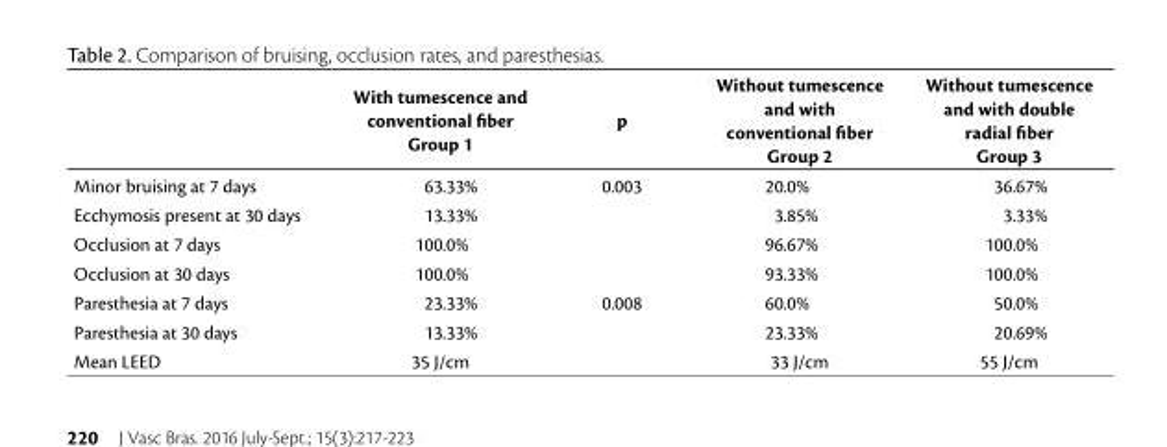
<table><thead><tr><td></td><td>With tumescence and conventional fiber Group 1</td><td>p</td><td>Without tumescence and with conventional fiber Group 2</td><td>Without tumescence and with double radial fiber Group 3</td></tr></thead><tbody><tr><td>Minor bruising at 7 days</td><td>63.33%</td><td>0.003</td><td>20.0%</td><td>36.67%</td></tr><tr><td>Ecchymosis present at 30 days</td><td>13.33%</td><td></td><td>3.85%</td><td>3.33%</td></tr><tr><td>Occlusion at 7 days</td><td>100.0%</td><td></td><td>96.67%</td><td>100.0%</td></tr><tr><td>Occlusion at 30 days</td><td>100.0%</td><td></td><td>93.33%</td><td>100.0%</td></tr><tr><td>Paresthesia at 7 days</td><td>23.33%</td><td>0.008</td><td>60.0%</td><td>50.0%</td></tr><tr><td>Paresthesia at 30 days</td><td>13.33%</td><td></td><td>23.33%</td><td>20.69%</td></tr><tr><td>Mean LEED</td><td>35 J/cm</td><td></td><td>33 J/cm</td><td>55 J/cm</td></tr></tbody></table>